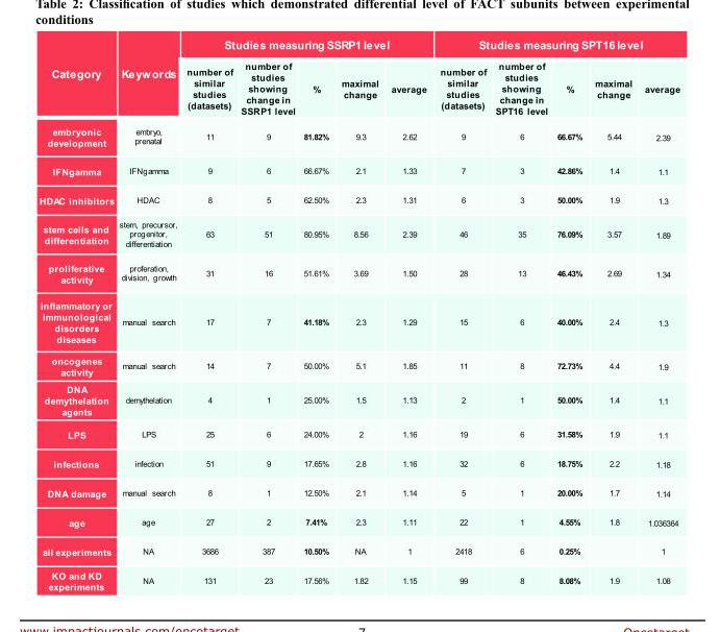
<table><thead><tr><td rowspan="2">Category</td><td rowspan="2">Keywords</td><td colspan="5">Studies measuring SSRP1 level</td><td colspan="5">Studies measuring SPT16 level</td></tr><tr><td>number of similar studies (datasets)</td><td>number of studies showing change in SSRP1 level</td><td>%</td><td>maximal change</td><td>average</td><td>number of similar studies (datasets)</td><td>number of studies showing change in SPT16 level</td><td>%</td><td>maximal change</td><td>average</td></tr></thead><tbody><tr><td>embryonic development</td><td>embryo, prenatal</td><td>11</td><td>9</td><td>81.82%</td><td>9.3</td><td>2.62</td><td>9</td><td>6</td><td>66.67%</td><td>5.44</td><td>2.39</td></tr><tr><td>IFNgamma</td><td>IFNgamma</td><td>9</td><td>6</td><td>66.67%</td><td>2.1</td><td>1.33</td><td>7</td><td>3</td><td>42.86%</td><td>1.4</td><td>1.1</td></tr><tr><td>HDAC inhibitors</td><td>HDAC</td><td>8</td><td>5</td><td>62.50%</td><td>2.3</td><td>1.31</td><td>6</td><td>3</td><td>50.00%</td><td>1.9</td><td>1.3</td></tr><tr><td>stem cells and differentiation</td><td>stem, precursor, progenitor, differentiation</td><td>63</td><td>51</td><td>80.95%</td><td>8.56</td><td>2.39</td><td>46</td><td>35</td><td>76.09%</td><td>3.57</td><td>1.89</td></tr><tr><td>proliferative activity</td><td>proferation, division, growth</td><td>31</td><td>16</td><td>51.61%</td><td>3.69</td><td>1.50</td><td>28</td><td>13</td><td>46.43%</td><td>2.69</td><td>1.34</td></tr><tr><td>inflammatory or immunological disorders diseases</td><td>manual search</td><td>17</td><td>7</td><td>41.18%</td><td>2.3</td><td>1.29</td><td>15</td><td>6</td><td>40.00%</td><td>2.4</td><td>1.3</td></tr><tr><td>oncogenes activity</td><td>manual search</td><td>14</td><td>7</td><td>50.00%</td><td>5.1</td><td>1.85</td><td>11</td><td>8</td><td>72.73%</td><td>4.4</td><td>1.9</td></tr><tr><td>DNA demythelation agents</td><td>demythelation</td><td>4</td><td>1</td><td>25.00%</td><td>1.5</td><td>1.13</td><td>2</td><td>1</td><td>50.00%</td><td>1.4</td><td>1.1</td></tr><tr><td>LPS</td><td>LPS</td><td>25</td><td>6</td><td>24.00%</td><td>2</td><td>1.16</td><td>19</td><td>6</td><td>31.58%</td><td>1.9</td><td>1.1</td></tr><tr><td>infections</td><td>infection</td><td>51</td><td>9</td><td>17.65%</td><td>2.8</td><td>1.16</td><td>32</td><td>6</td><td>18.75%</td><td>2.2</td><td>1.18</td></tr><tr><td>DNA damage</td><td>manual search</td><td>8</td><td>1</td><td>12.50%</td><td>2.1</td><td>1.14</td><td>5</td><td>1</td><td>20.00%</td><td>1.7</td><td>1.14</td></tr><tr><td>age</td><td>age</td><td>27</td><td>2</td><td>7.41%</td><td>2.3</td><td>1.11</td><td>22</td><td>1</td><td>4.55%</td><td>1.8</td><td>1.036364</td></tr><tr><td>all experiments</td><td>NA</td><td>3686</td><td>387</td><td>10.50%</td><td>NA</td><td>1</td><td>2418</td><td>6</td><td>0.25%</td><td></td><td>1</td></tr><tr><td>KO and KD experiments</td><td>NA</td><td>131</td><td>23</td><td>17.56%</td><td>1.82</td><td>1.15</td><td>99</td><td>8</td><td>8.08%</td><td>1.9</td><td>1.08</td></tr></tbody></table>